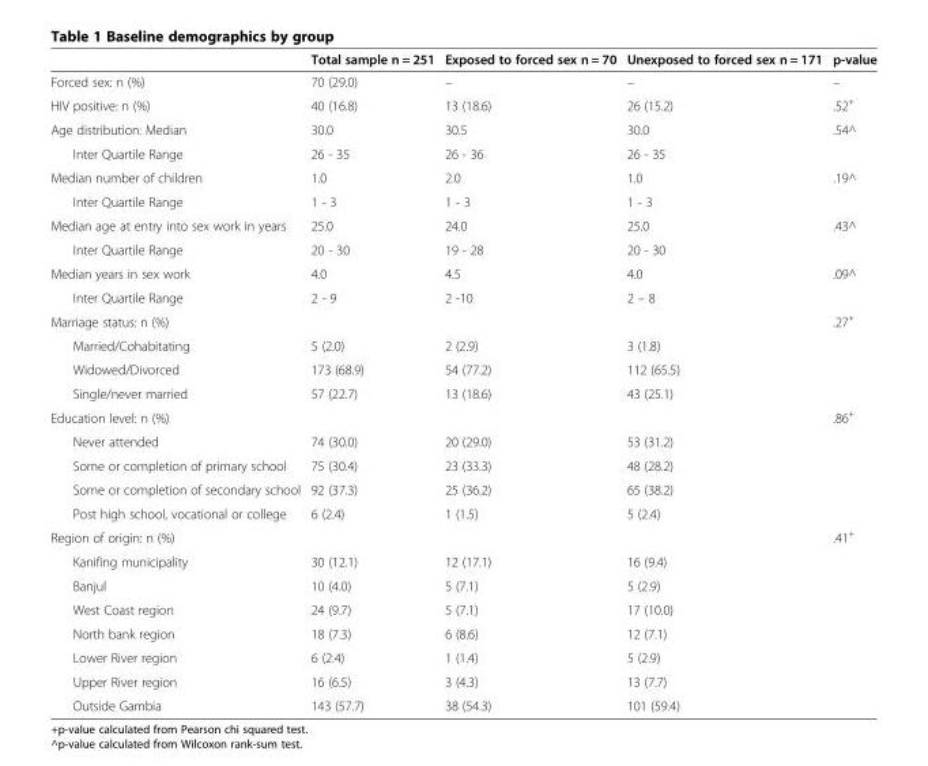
<table><thead><tr><td></td><td>Total sample n = 251</td><td>Exposed to forced sex n = 70</td><td>Unexposed to forced sex n = 171</td><td>p-value</td></tr></thead><tbody><tr><td>Forced sex: n (%)</td><td>70 (29.0)</td><td>–</td><td>–</td><td>–</td></tr><tr><td>HIV positive: n (%)</td><td>40 (16.8)</td><td>13 (18.6)</td><td>26 (15.2)</td><td>.52<sup>+</sup></td></tr><tr><td>Age distribution: Median</td><td>30.0</td><td>30.5</td><td>30.0</td><td>.54^</td></tr><tr><td>Inter Quartile Range</td><td>26 - 35</td><td>26 - 36</td><td>26 - 35</td><td></td></tr><tr><td>Median number of children</td><td>1.0</td><td>2.0</td><td>1.0</td><td>.19^</td></tr><tr><td>Inter Quartile Range</td><td>1 - 3</td><td>1 - 3</td><td>1 - 3</td><td></td></tr><tr><td>Median age at entry into sex work in years</td><td>25.0</td><td>24.0</td><td>25.0</td><td>.43^</td></tr><tr><td>Inter Quartile Range</td><td>20 - 30</td><td>19 - 28</td><td>20 - 30</td><td></td></tr><tr><td>Median years in sex work</td><td>4.0</td><td>4.5</td><td>4.0</td><td>.09^</td></tr><tr><td>Inter Quartile Range</td><td>2 - 9</td><td>2 -10</td><td>2 – 8</td><td></td></tr><tr><td>Marriage status: n (%)</td><td></td><td></td><td></td><td>.27<sup>+</sup></td></tr><tr><td>Married/Cohabitating</td><td>5 (2.0)</td><td>2 (2.9)</td><td>3 (1.8)</td><td rowspan="3"></td></tr><tr><td>Widowed/Divorced</td><td>173 (68.9)</td><td>54 (77.2)</td><td>112 (65.5)</td></tr><tr><td>Single/never married</td><td>57 (22.7)</td><td>13 (18.6)</td><td>43 (25.1)</td></tr><tr><td>Education level: n (%)</td><td></td><td></td><td></td><td>.86<sup>+</sup></td></tr><tr><td>Never attended</td><td>74 (30.0)</td><td>20 (29.0)</td><td>53 (31.2)</td><td rowspan="4"></td></tr><tr><td>Some or completion of primary school</td><td>75 (30.4)</td><td>23 (33.3)</td><td>48 (28.2)</td></tr><tr><td>Some or completion of secondary school</td><td>92 (37.3)</td><td>25 (36.2)</td><td>65 (38.2)</td></tr><tr><td>Post high school, vocational or college</td><td>6 (2.4)</td><td>1 (1.5)</td><td>5 (2.4)</td></tr><tr><td>Region of origin: n (%)</td><td></td><td></td><td></td><td>.41<sup>+</sup></td></tr><tr><td>Kanifing municipality</td><td>30 (12.1)</td><td>12 (17.1)</td><td>16 (9.4)</td><td rowspan="7"></td></tr><tr><td>Banjul</td><td>10 (4.0)</td><td>5 (7.1)</td><td>5 (2.9)</td></tr><tr><td>West Coast region</td><td>24 (9.7)</td><td>5 (7.1)</td><td>17 (10.0)</td></tr><tr><td>North bank region</td><td>18 (7.3)</td><td>6 (8.6)</td><td>12 (7.1)</td></tr><tr><td>Lower River region</td><td>6 (2.4)</td><td>1 (1.4)</td><td>5 (2.9)</td></tr><tr><td>Upper River region</td><td>16 (6.5)</td><td>3 (4.3)</td><td>13 (7.7)</td></tr><tr><td>Outside Gambia</td><td>143 (57.7)</td><td>38 (54.3)</td><td>101 (59.4)</td></tr></tbody></table>